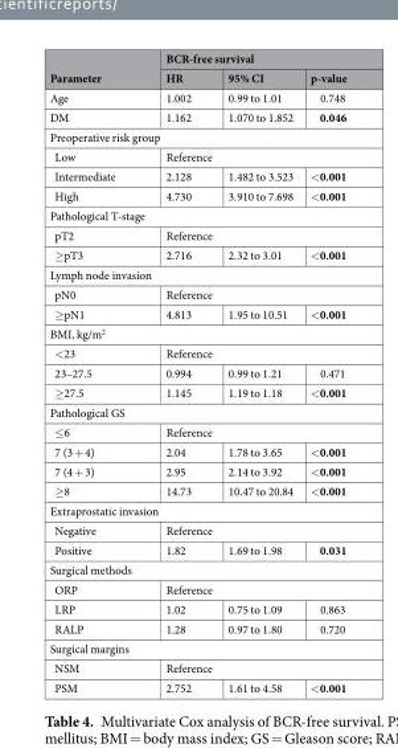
<table><thead><tr><td rowspan="2">Parameter</td><td colspan="3">BCR-free survival</td></tr><tr><td>HR</td><td>95% CI</td><td>p-value</td></tr></thead><tbody><tr><td>Age</td><td>1.002</td><td>0.99 to 1.01</td><td>0.748</td></tr><tr><td>DM</td><td>1.162</td><td>1.070 to 1.852</td><td>0.046</td></tr><tr><td colspan="4">Preoperative risk group</td></tr><tr><td>Low</td><td colspan="3">Reference</td></tr><tr><td>Intermediate</td><td>2.128</td><td>1.482 to 3.523</td><td>&lt;0.001</td></tr><tr><td>High</td><td>4.730</td><td>3.910 to 7.698</td><td>&lt;0.001</td></tr><tr><td colspan="4">Pathological T-stage</td></tr><tr><td>pT2</td><td colspan="3">Reference</td></tr><tr><td>≥pT3</td><td>2.716</td><td>2.32 to 3.01</td><td>&lt;0.001</td></tr><tr><td colspan="4">Lymph node invasion</td></tr><tr><td>pN0</td><td colspan="3">Reference</td></tr><tr><td>≥pN1</td><td>4.813</td><td>1.95 to 10.51</td><td>&lt;0.001</td></tr><tr><td colspan="4">BMI, kg/m<sup>2</sup></td></tr><tr><td>&lt;23</td><td colspan="3">Reference</td></tr><tr><td>23–27.5</td><td>0.994</td><td>0.99 to 1.21</td><td>0.471</td></tr><tr><td>≥27.5</td><td>1.145</td><td>1.19 to 1.18</td><td>&lt;0.001</td></tr><tr><td colspan="4">Pathological GS</td></tr><tr><td>≤6</td><td colspan="3">Reference</td></tr><tr><td>7 (3 + 4)</td><td>2.04</td><td>1.78 to 3.65</td><td>&lt;0.001</td></tr><tr><td>7 (4 + 3)</td><td>2.95</td><td>2.14 to 3.92</td><td>&lt;0.001</td></tr><tr><td>≥8</td><td>14.73</td><td>10.47 to 20.84</td><td>&lt;0.001</td></tr><tr><td colspan="4">Extraprostatic invasion</td></tr><tr><td>Negative</td><td colspan="3">Reference</td></tr><tr><td>Positive</td><td>1.82</td><td>1.69 to 1.98</td><td>0.031</td></tr><tr><td colspan="4">Surgical methods</td></tr><tr><td>ORP</td><td colspan="3">Reference</td></tr><tr><td>LRP</td><td>1.02</td><td>0.75 to 1.09</td><td>0.863</td></tr><tr><td>RALP</td><td>1.28</td><td>0.97 to 1.80</td><td>0.720</td></tr><tr><td colspan="4">Surgical margins</td></tr><tr><td>NSM</td><td colspan="3">Reference</td></tr><tr><td>PSM</td><td>2.752</td><td>1.61 to 4.58</td><td>&lt;0.001</td></tr></tbody></table>